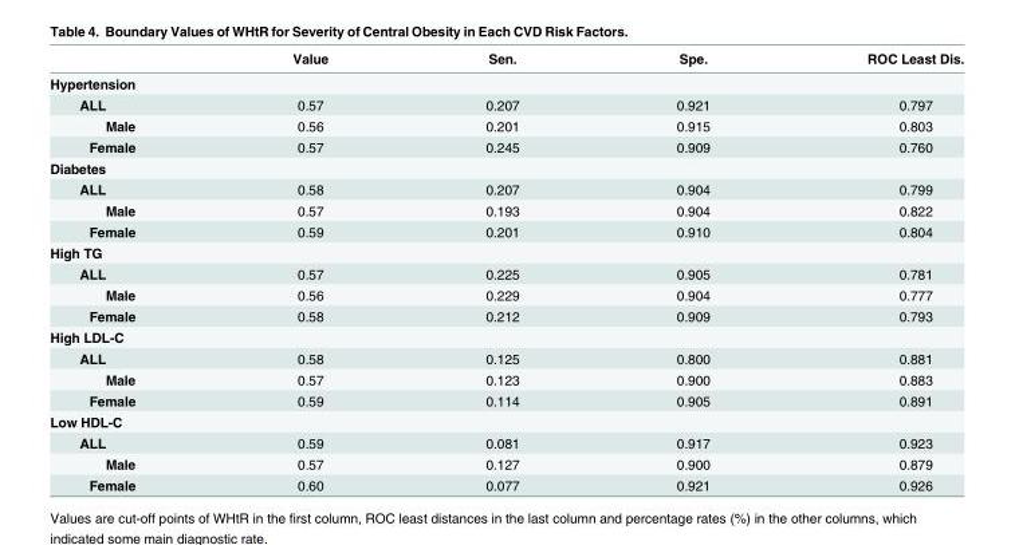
<table><thead><tr><td></td><td>Value</td><td>Sen.</td><td>Spe.</td><td>ROC Least Dis.</td></tr></thead><tbody><tr><td colspan="5">Hypertension</td></tr><tr><td>ALL</td><td>0.57</td><td>0.207</td><td>0.921</td><td>0.797</td></tr><tr><td>Male</td><td>0.56</td><td>0.201</td><td>0.915</td><td>0.803</td></tr><tr><td>Female</td><td>0.57</td><td>0.245</td><td>0.909</td><td>0.760</td></tr><tr><td colspan="5">Diabetes</td></tr><tr><td>ALL</td><td>0.58</td><td>0.207</td><td>0.904</td><td>0.799</td></tr><tr><td>Male</td><td>0.57</td><td>0.193</td><td>0.904</td><td>0.822</td></tr><tr><td>Female</td><td>0.59</td><td>0.201</td><td>0.910</td><td>0.804</td></tr><tr><td colspan="5">High TG</td></tr><tr><td>ALL</td><td>0.57</td><td>0.225</td><td>0.905</td><td>0.781</td></tr><tr><td>Male</td><td>0.56</td><td>0.229</td><td>0.904</td><td>0.777</td></tr><tr><td>Female</td><td>0.58</td><td>0.212</td><td>0.909</td><td>0.793</td></tr><tr><td colspan="5">High LDL-C</td></tr><tr><td>ALL</td><td>0.58</td><td>0.125</td><td>0.800</td><td>0.881</td></tr><tr><td>Male</td><td>0.57</td><td>0.123</td><td>0.900</td><td>0.883</td></tr><tr><td>Female</td><td>0.59</td><td>0.114</td><td>0.905</td><td>0.891</td></tr><tr><td colspan="5">Low HDL-C</td></tr><tr><td>ALL</td><td>0.59</td><td>0.081</td><td>0.917</td><td>0.923</td></tr><tr><td>Male</td><td>0.57</td><td>0.127</td><td>0.900</td><td>0.879</td></tr><tr><td>Female</td><td>0.60</td><td>0.077</td><td>0.921</td><td>0.926</td></tr></tbody></table>